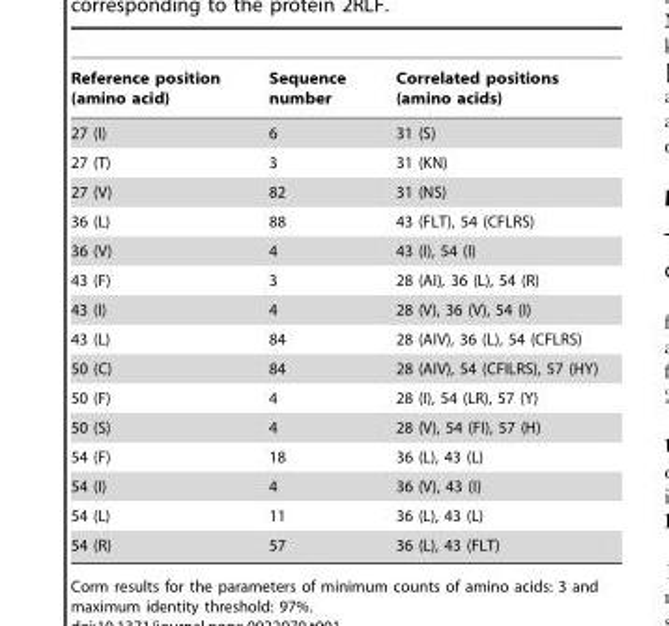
<table><thead><tr><td>Reference position (amino acid)</td><td>Sequence number</td><td>Correlated positions (amino acids)</td></tr></thead><tbody><tr><td>27 (I)</td><td>6</td><td>31 (S)</td></tr><tr><td>27 (T)</td><td>3</td><td>31 (KN)</td></tr><tr><td>27 (V)</td><td>82</td><td>31 (NS)</td></tr><tr><td>36 (L)</td><td>88</td><td>43 (FLT), 54 (CFLRS)</td></tr><tr><td>36 (V)</td><td>4</td><td>43 (I), 54 (I)</td></tr><tr><td>43 (F)</td><td>3</td><td>28 (AI), 36 (L), 54 (R)</td></tr><tr><td>43 (I)</td><td>4</td><td>28 (V), 36 (V), 54 (I)</td></tr><tr><td>43 (L)</td><td>84</td><td>28 (AIV), 36 (L), 54 (CFLRS)</td></tr><tr><td>50 (C)</td><td>84</td><td>28 (AIV), 54 (CFILRS), 57 (HY)</td></tr><tr><td>50 (F)</td><td>4</td><td>28 (I), 54 (LR), 57 (Y)</td></tr><tr><td>50 (S)</td><td>4</td><td>28 (V), 54 (FI), 57 (H)</td></tr><tr><td>54 (F)</td><td>18</td><td>36 (L), 43 (L)</td></tr><tr><td>54 (I)</td><td>4</td><td>36 (V), 43 (I)</td></tr><tr><td>54 (L)</td><td>11</td><td>36 (L), 43 (L)</td></tr><tr><td>54 (R)</td><td>57</td><td>36 (L), 43 (FLT)</td></tr></tbody></table>